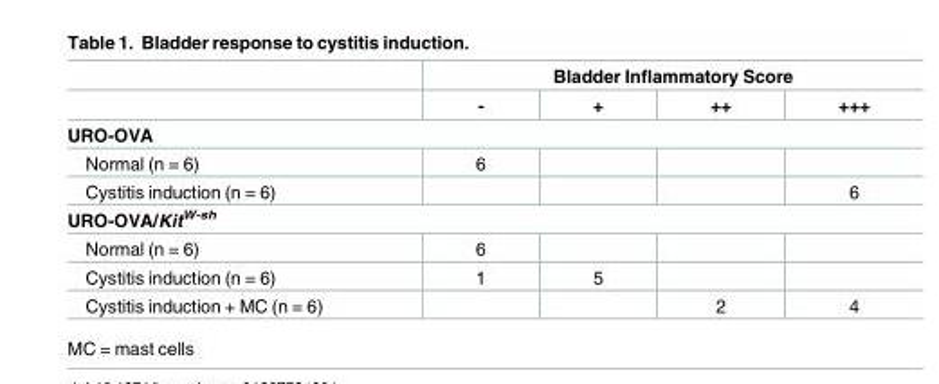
<table><thead><tr><td rowspan="2"></td><td colspan="4">Bladder Inflammatory Score</td></tr><tr><td>-</td><td>+</td><td>++</td><td>+++</td></tr></thead><tbody><tr><td colspan="5">URO-OVA</td></tr><tr><td>Normal (n = 6)</td><td>6</td><td></td><td></td><td></td></tr><tr><td>Cystitis induction (n = 6)</td><td></td><td></td><td></td><td>6</td></tr><tr><td colspan="5">URO-OVA/Kit<sup>W-sh</sup></td></tr><tr><td>Normal (n = 6)</td><td>6</td><td></td><td></td><td></td></tr><tr><td>Cystitis induction (n = 6)</td><td>1</td><td>5</td><td></td><td></td></tr><tr><td>Cystitis induction + MC (n = 6)</td><td></td><td></td><td>2</td><td>4</td></tr></tbody></table>